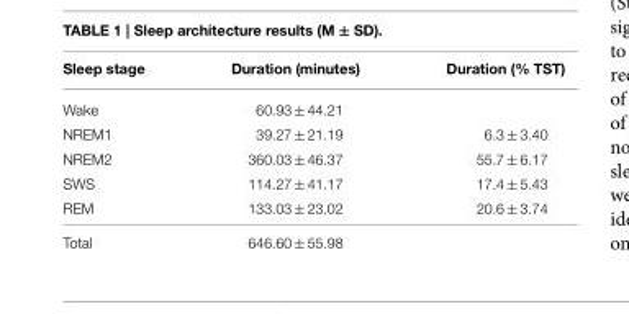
<table><thead><tr><td>Sleep stage</td><td>Duration (minutes)</td><td>Duration (% TST)</td></tr></thead><tbody><tr><td>Wake</td><td>60.93 ± 44.21</td><td></td></tr><tr><td>NREM1</td><td>39.27 ± 21.19</td><td>6.3 ± 3.40</td></tr><tr><td>NREM2</td><td>360.03 ± 46.37</td><td>55.7 ± 6.17</td></tr><tr><td>SWS</td><td>114.27 ± 41.17</td><td>17.4 ± 5.43</td></tr><tr><td>REM</td><td>133.03 ± 23.02</td><td>20.6 ± 3.74</td></tr><tr><td>Total</td><td>646.60 ± 55.98</td><td></td></tr></tbody></table>